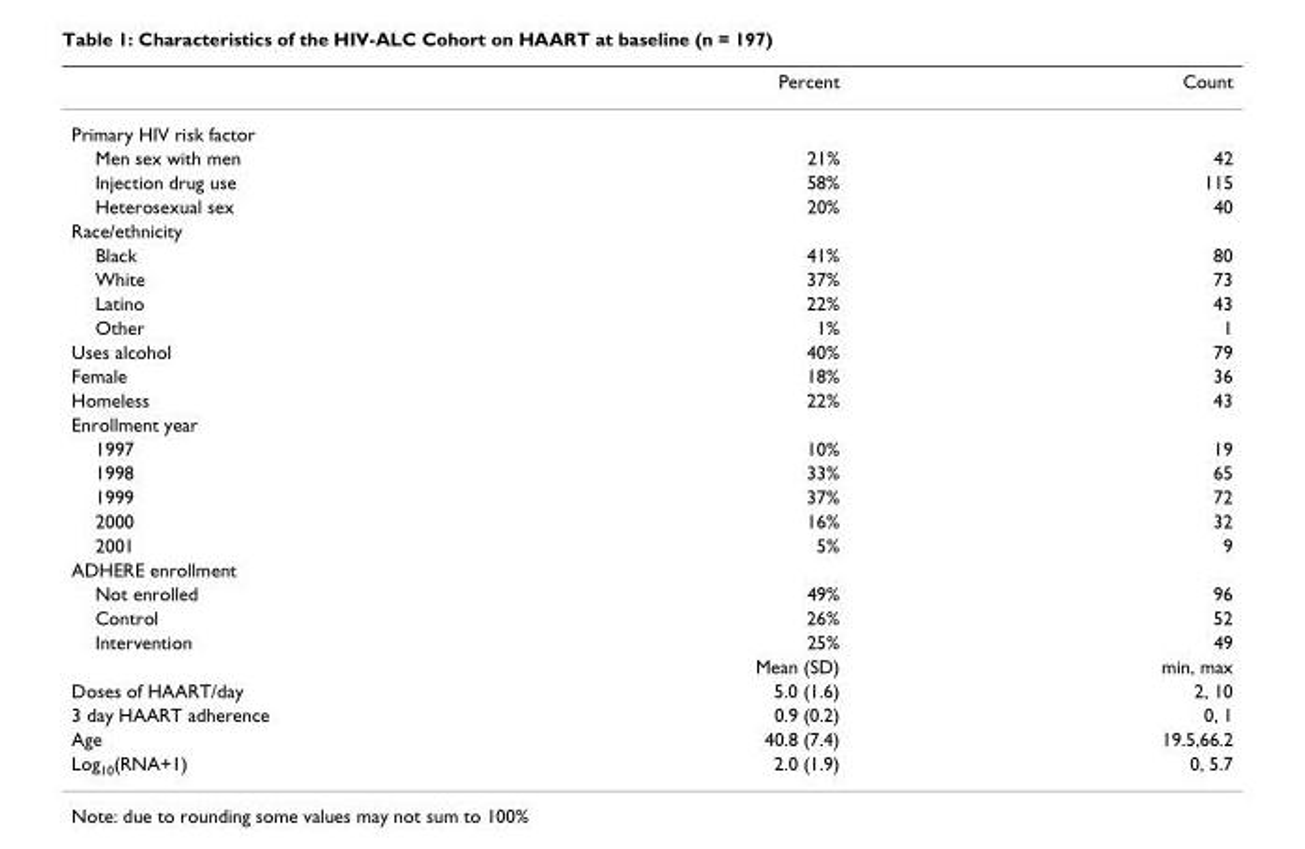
<table><thead><tr><td></td><td>Percent</td><td>Count</td></tr></thead><tbody><tr><td colspan="3">Primary HIV risk factor</td></tr><tr><td>Men sex with men</td><td>21%</td><td>42</td></tr><tr><td>Injection drug use</td><td>58%</td><td>115</td></tr><tr><td>Heterosexual sex</td><td>20%</td><td>40</td></tr><tr><td colspan="3">Race/ethnicity</td></tr><tr><td>Black</td><td>41%</td><td>80</td></tr><tr><td>White</td><td>37%</td><td>73</td></tr><tr><td>Latino</td><td>22%</td><td>43</td></tr><tr><td>Other</td><td>1%</td><td>1</td></tr><tr><td>Uses alcohol</td><td>40%</td><td>79</td></tr><tr><td>Female</td><td>18%</td><td>36</td></tr><tr><td>Homeless</td><td>22%</td><td>43</td></tr><tr><td colspan="3">Enrollment year</td></tr><tr><td>1997</td><td>10%</td><td>19</td></tr><tr><td>1998</td><td>33%</td><td>65</td></tr><tr><td>1999</td><td>37%</td><td>72</td></tr><tr><td>2000</td><td>16%</td><td>32</td></tr><tr><td>2001</td><td>5%</td><td>9</td></tr><tr><td colspan="3">ADHERE enrollment</td></tr><tr><td>Not enrolled</td><td>49%</td><td>96</td></tr><tr><td>Control</td><td>26%</td><td>52</td></tr><tr><td rowspan="2">Intervention</td><td>25%</td><td>49</td></tr><tr><td>Mean (SD)</td><td>min, max</td></tr><tr><td>Doses of HAART/day</td><td>5.0 (1.6)</td><td>2, 10</td></tr><tr><td>3 day HAART adherence</td><td>0.9 (0.2)</td><td>0, 1</td></tr><tr><td>Age</td><td>40.8 (7.4)</td><td>19.5,66.2</td></tr><tr><td>Log<sub>10</sub>(RNA+1)</td><td>2.0 (1.9)</td><td>0, 5.7</td></tr></tbody></table>